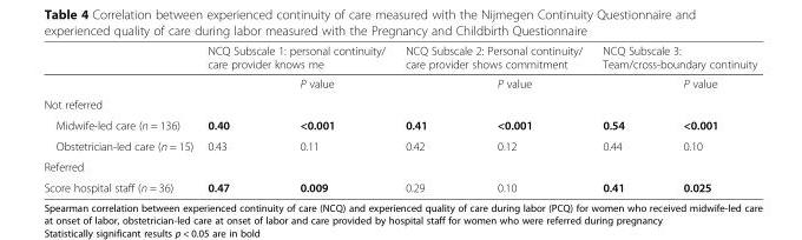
<table><thead><tr><td rowspan="2"></td><td colspan="2">NCQ Subscale 1: personal continuity/ care provider knows me</td><td colspan="2">NCQ Subscale 2: Personal continuity/ care provider shows commitment</td><td colspan="2">NCQ Subscale 3: Team/cross-boundary continuity</td></tr><tr><td></td><td>P value</td><td></td><td>P value</td><td></td><td>P value</td></tr></thead><tbody><tr><td colspan="7">Not referred</td></tr><tr><td>Midwife-led care (n = 136)</td><td>0.40</td><td>&lt;0.001</td><td>0.41</td><td>&lt;0.001</td><td>0.54</td><td>&lt;0.001</td></tr><tr><td>Obstetrician-led care (n = 15)</td><td>0.43</td><td>0.11</td><td>0.42</td><td>0.12</td><td>0.44</td><td>0.10</td></tr><tr><td colspan="7">Referred</td></tr><tr><td>Score hospital staff (n = 36)</td><td>0.47</td><td>0.009</td><td>0.29</td><td>0.10</td><td>0.41</td><td>0.025</td></tr></tbody></table>